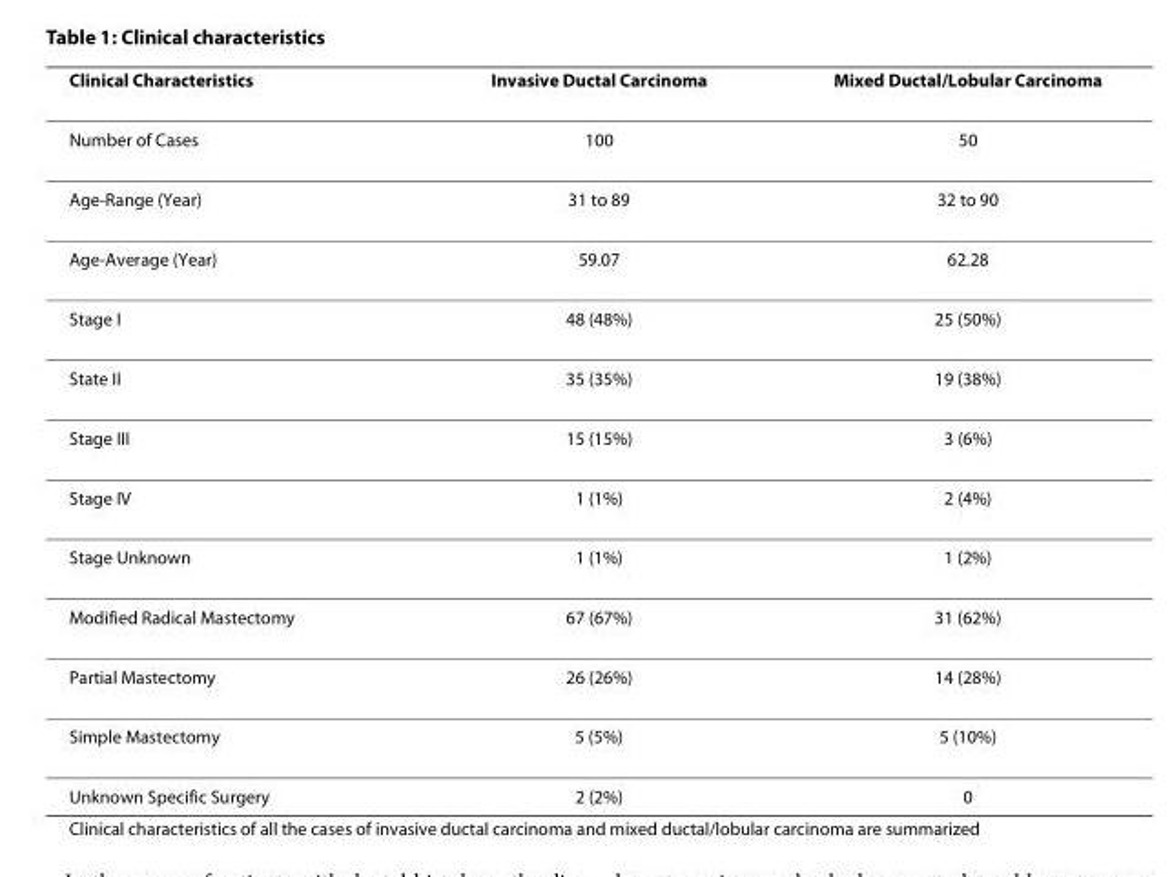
<table><thead><tr><td>Clinical Characteristics</td><td>Invasive Ductal Carcinoma</td><td>Mixed Ductal/Lobular Carcinoma</td></tr></thead><tbody><tr><td>Number of Cases</td><td>100</td><td>50</td></tr><tr><td>Age-Range (Year)</td><td>31 to 89</td><td>32 to 90</td></tr><tr><td>Age-Average (Year)</td><td>59.07</td><td>62.28</td></tr><tr><td>Stage I</td><td>48 (48%)</td><td>25 (50%)</td></tr><tr><td>State II</td><td>35 (35%)</td><td>19 (38%)</td></tr><tr><td>Stage III</td><td>15 (15%)</td><td>3 (6%)</td></tr><tr><td>Stage IV</td><td>1 (1%)</td><td>2 (4%)</td></tr><tr><td>Stage Unknown</td><td>1 (1%)</td><td>1 (2%)</td></tr><tr><td>Modified Radical Mastectomy</td><td>67 (67%)</td><td>31 (62%)</td></tr><tr><td>Partial Mastectomy</td><td>26 (26%)</td><td>14 (28%)</td></tr><tr><td>Simple Mastectomy</td><td>5 (5%)</td><td>5 (10%)</td></tr><tr><td>Unknown Specific Surgery</td><td>2 (2%)</td><td>0</td></tr></tbody></table>